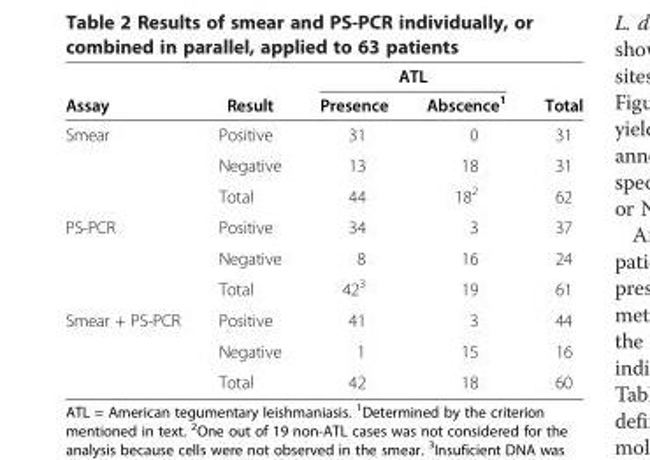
<table><thead><tr><td rowspan="2">Assay</td><td rowspan="2">Result</td><td colspan="2">ATL</td><td rowspan="2">Total</td></tr><tr><td>Presence</td><td>Abscence<sup>1</sup></td></tr></thead><tbody><tr><td rowspan="3">Smear</td><td>Positive</td><td>31</td><td>0</td><td>31</td></tr><tr><td>Negative</td><td>13</td><td>18</td><td>31</td></tr><tr><td>Total</td><td>44</td><td>18<sup>2</sup></td><td>62</td></tr><tr><td rowspan="3">PS-PCR</td><td>Positive</td><td>34</td><td>3</td><td>37</td></tr><tr><td>Negative</td><td>8</td><td>16</td><td>24</td></tr><tr><td>Total</td><td>42<sup>3</sup></td><td>19</td><td>61</td></tr><tr><td rowspan="3">Smear + PS-PCR</td><td>Positive</td><td>41</td><td>3</td><td>44</td></tr><tr><td>Negative</td><td>1</td><td>15</td><td>16</td></tr><tr><td>Total</td><td>42</td><td>18</td><td>60</td></tr></tbody></table>